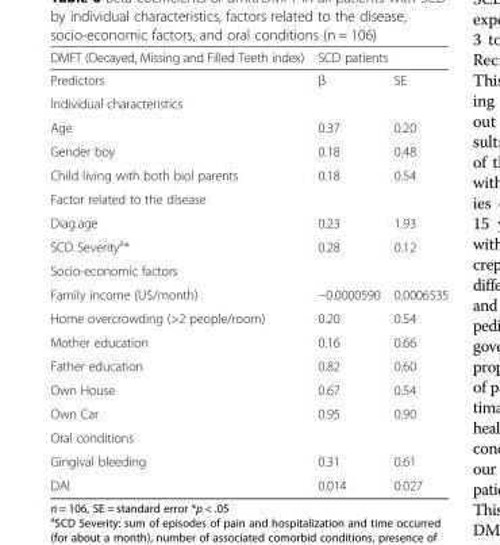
<table><thead><tr><td rowspan="2">DMFT (Decayed, Missing and Filled Teeth index) Predictors</td><td colspan="2">SCD patients</td></tr><tr><td>β</td><td>SE</td></tr></thead><tbody><tr><td colspan="3">Individual characteristics</td></tr><tr><td>Age</td><td>0.37</td><td>0.20</td></tr><tr><td>Gender boy</td><td>0.18</td><td>0.48</td></tr><tr><td>Child living with both biol parents</td><td>0.18</td><td>0.54</td></tr><tr><td colspan="3">Factor related to the disease</td></tr><tr><td>Diag.age</td><td>0.23</td><td>1.93</td></tr><tr><td>SCD Severity<sup>a</sup>*</td><td>0.28</td><td>0.12</td></tr><tr><td colspan="3">Socio-economic factors</td></tr><tr><td>Family income (U$/month)</td><td>−0.0000590</td><td>0.0006535</td></tr><tr><td>Home overcrowding (&gt;2 people/room)</td><td>0.20</td><td>0.54</td></tr><tr><td>Mother education</td><td>0.16</td><td>0.66</td></tr><tr><td>Father education</td><td>0.82</td><td>0.60</td></tr><tr><td>Own House</td><td>0.67</td><td>0.54</td></tr><tr><td>Own Car</td><td>0.95</td><td>0.90</td></tr><tr><td colspan="3">Oral conditions</td></tr><tr><td>Gingival bleeding</td><td>0.31</td><td>0.61</td></tr><tr><td>DAI</td><td>0.014</td><td>0.027</td></tr></tbody></table>